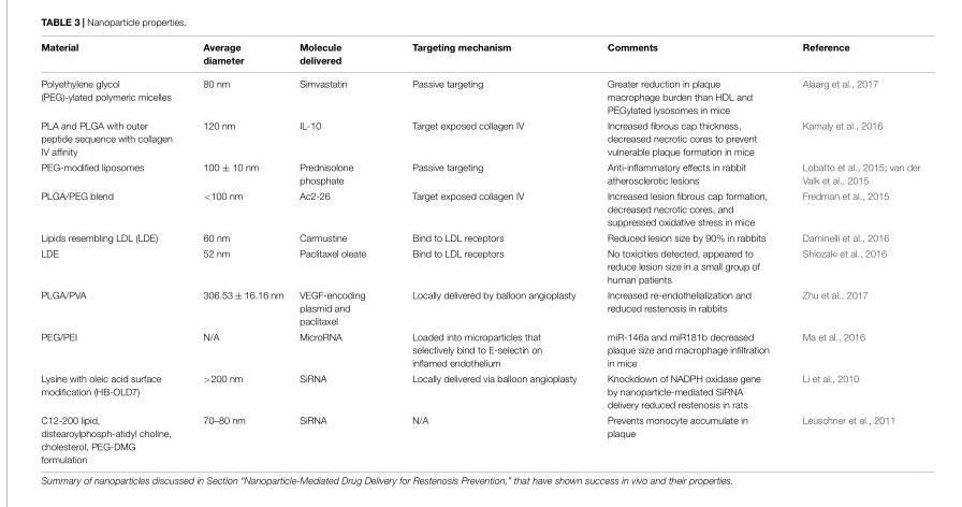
<table><thead><tr><td>Material</td><td>Average diameter</td><td>Molecule delivered</td><td>Targeting mechanism</td><td>Comments</td><td>Reference</td></tr></thead><tbody><tr><td>Polyethylene glycol (PEG)-ylated polymeric micelles</td><td>80 nm</td><td>Simvastatin</td><td>Passive targeting</td><td>Greater reduction in plaque macrophage burden than HDL and PEGylated lysosomes in mice</td><td>Alaarg et al., 2017</td></tr><tr><td>PLA and PLGA with outer peptide sequence with collagen IV affinity</td><td>120 nm</td><td>IL-10</td><td>Target exposed collagen IV</td><td>Increased fibrous cap thickness, decreased necrotic cores to prevent vulnerable plaque formation in mice</td><td>Kamaly et al., 2016</td></tr><tr><td>PEG-modified liposomes</td><td>100 ± 10 nm</td><td>Prednisolone phosphate</td><td>Passive targeting</td><td>Anti-inflammatory effects in rabbit atherosclerotic lesions</td><td>Lobatto et al., 2015; van der Valk et al., 2015</td></tr><tr><td>PLGA/PEG blend</td><td>&lt;100 nm</td><td>Ac2-26</td><td>Target exposed collagen IV</td><td>Increased lesion fibrous cap formation, decreased necrotic cores, and suppressed oxidative stress in mice</td><td>Fredman et al., 2015</td></tr><tr><td>Lipids resembling LDL (LDE)</td><td>60 nm</td><td>Carmustine</td><td>Bind to LDL receptors</td><td>Reduced lesion size by 90% in rabbits</td><td>Daminelli et al., 2016</td></tr><tr><td>LDE</td><td>52 nm</td><td>Paclitaxel oleate</td><td>Bind to LDL receptors</td><td>No toxicities detected, appeared to reduce lesion size in a small group of human patients</td><td>Shiozaki et al., 2016</td></tr><tr><td>PLGA/PVA</td><td>306.53 ± 16.16 nm</td><td>VEGF-encoding plasmid and paclitaxel</td><td>Locally delivered by balloon angioplasty</td><td>Increased re-endothelialization and reduced restenosis in rabbits</td><td>Zhu et al., 2017</td></tr><tr><td>PEG/PEI</td><td>N/A</td><td>MicroRNA</td><td>Loaded into microparticles that selectively bind to E-selectin on inflamed endothelium</td><td>miR-146a and miR181b decreased plaque size and macrophage infiltration in mice</td><td>Ma et al., 2016</td></tr><tr><td>Lysine with oleic acid surface modification (HB-OLD7)</td><td>&gt;200 nm</td><td>SiRNA</td><td>Locally delivered via balloon angioplasty</td><td>Knockdown of NADPH oxidase gene by nanoparticle-mediated SiRNA delivery reduced restenosis in rats</td><td>Li et al., 2010</td></tr><tr><td>C12-200 lipid, distearoylphosph-atidyl choline, cholesterol, PEG-DMG formulation</td><td>70–80 nm</td><td>SiRNA</td><td>N/A</td><td>Prevents monocyte accumulate in plaque</td><td>Leuschner et al., 2011</td></tr></tbody></table>